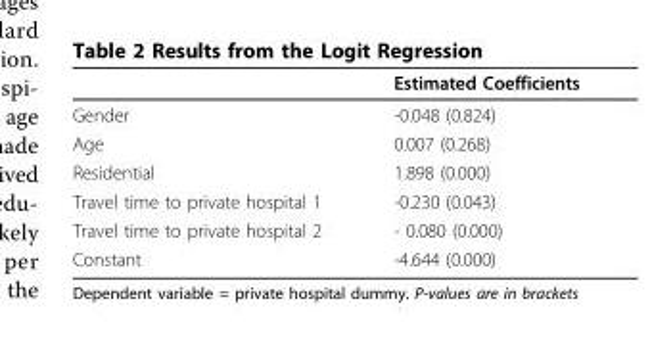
<table><thead><tr><td></td><td>Estimated Coefficients</td></tr></thead><tbody><tr><td>Gender</td><td>-0.048 (0.824)</td></tr><tr><td>Age</td><td>0.007 (0.268)</td></tr><tr><td>Residential</td><td>1.898 (0.000)</td></tr><tr><td>Travel time to private hospital 1</td><td>-0.230 (0.043)</td></tr><tr><td>Travel time to private hospital 2</td><td>- 0.080 (0.000)</td></tr><tr><td>Constant</td><td>-4.644 (0.000)</td></tr></tbody></table>